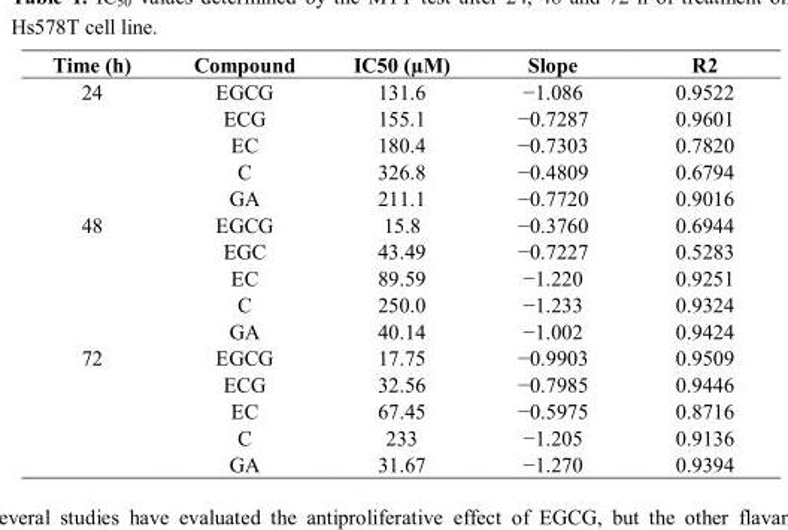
<table><thead><tr><td>Time (h)</td><td>Compound</td><td>IC50 (µM)</td><td>Slope</td><td>R2</td></tr></thead><tbody><tr><td rowspan="5">24</td><td>EGCG</td><td>131.6</td><td>−1.086</td><td>0.9522</td></tr><tr><td>ECG</td><td>155.1</td><td>−0.7287</td><td>0.9601</td></tr><tr><td>EC</td><td>180.4</td><td>−0.7303</td><td>0.7820</td></tr><tr><td>C</td><td>326.8</td><td>−0.4809</td><td>0.6794</td></tr><tr><td>GA</td><td>211.1</td><td>−0.7720</td><td>0.9016</td></tr><tr><td rowspan="5">48</td><td>EGCG</td><td>15.8</td><td>−0.3760</td><td>0.6944</td></tr><tr><td>EGC</td><td>43.49</td><td>−0.7227</td><td>0.5283</td></tr><tr><td>EC</td><td>89.59</td><td>−1.220</td><td>0.9251</td></tr><tr><td>C</td><td>250.0</td><td>−1.233</td><td>0.9324</td></tr><tr><td>GA</td><td>40.14</td><td>−1.002</td><td>0.9424</td></tr><tr><td rowspan="5">72</td><td>EGCG</td><td>17.75</td><td>−0.9903</td><td>0.9509</td></tr><tr><td>ECG</td><td>32.56</td><td>−0.7985</td><td>0.9446</td></tr><tr><td>EC</td><td>67.45</td><td>−0.5975</td><td>0.8716</td></tr><tr><td>C</td><td>233</td><td>−1.205</td><td>0.9136</td></tr><tr><td>GA</td><td>31.67</td><td>−1.270</td><td>0.9394</td></tr></tbody></table>